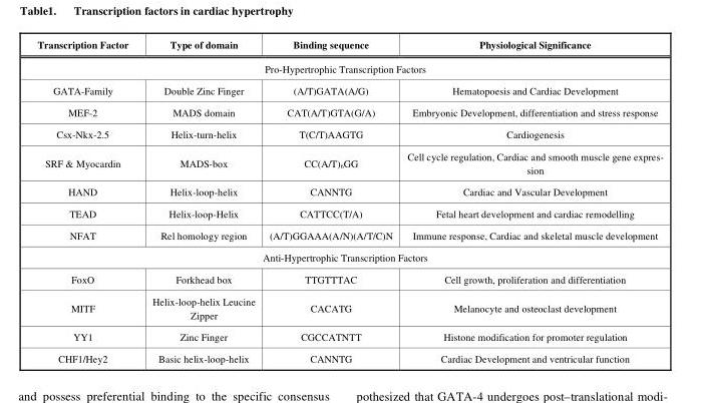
<table><thead><tr><td>Transcription Factor</td><td>Type of domain</td><td>Binding sequence</td><td>Physiological Significance</td></tr></thead><tbody><tr><td colspan="4">Pro-Hypertrophic Transcription Factors</td></tr><tr><td>GATA-Family</td><td>Double Zinc Finger</td><td>(A/T)GATA(A/G)</td><td>Hematopoesis and Cardiac Development</td></tr><tr><td>MEF-2</td><td>MADS domain</td><td>CAT(A/T)GTA(G/A)</td><td>Embryonic Development, differentiation and stress response</td></tr><tr><td>Csx-Nkx-2.5</td><td>Helix-turn-helix</td><td>T(C/T)AAGTG</td><td>Cardiogenesis</td></tr><tr><td>SRF &amp; Myocardin</td><td>MADS-box</td><td>CC(A/T)6GG</td><td>Cell cycle regulation, Cardiac and smooth muscle gene expres- sion</td></tr><tr><td>HAND</td><td>Helix-loop-helix</td><td>CANNTG</td><td>Cardiac and Vascular Development</td></tr><tr><td>TEAD</td><td>Helix-loop-Helix</td><td>CATTCC(T/A)</td><td>Fetal heart development and cardiac remodelling</td></tr><tr><td>NFAT</td><td>Rel homology region</td><td>(A/T)GGAAA(A/N)(A/T/C)N</td><td>Immune response, Cardiac and skeletal muscle development</td></tr><tr><td colspan="4">Anti-Hypertrophic Transcription Factors</td></tr><tr><td>FoxO</td><td>Forkhead box</td><td>TTGTTTAC</td><td>Cell growth, proliferation and differentiation</td></tr><tr><td>MITF</td><td>Helix-loop-helix Leucine Zipper</td><td>CACATG</td><td>Melanocyte and osteoclast development</td></tr><tr><td>YY1</td><td>Zinc Finger</td><td>CGCCATNTT</td><td>Histone modification for promoter regulation</td></tr><tr><td>CHF1/Hey2</td><td>Basic helix-loop-helix</td><td>CANNTG</td><td>Cardiac Development and ventricular function</td></tr></tbody></table>